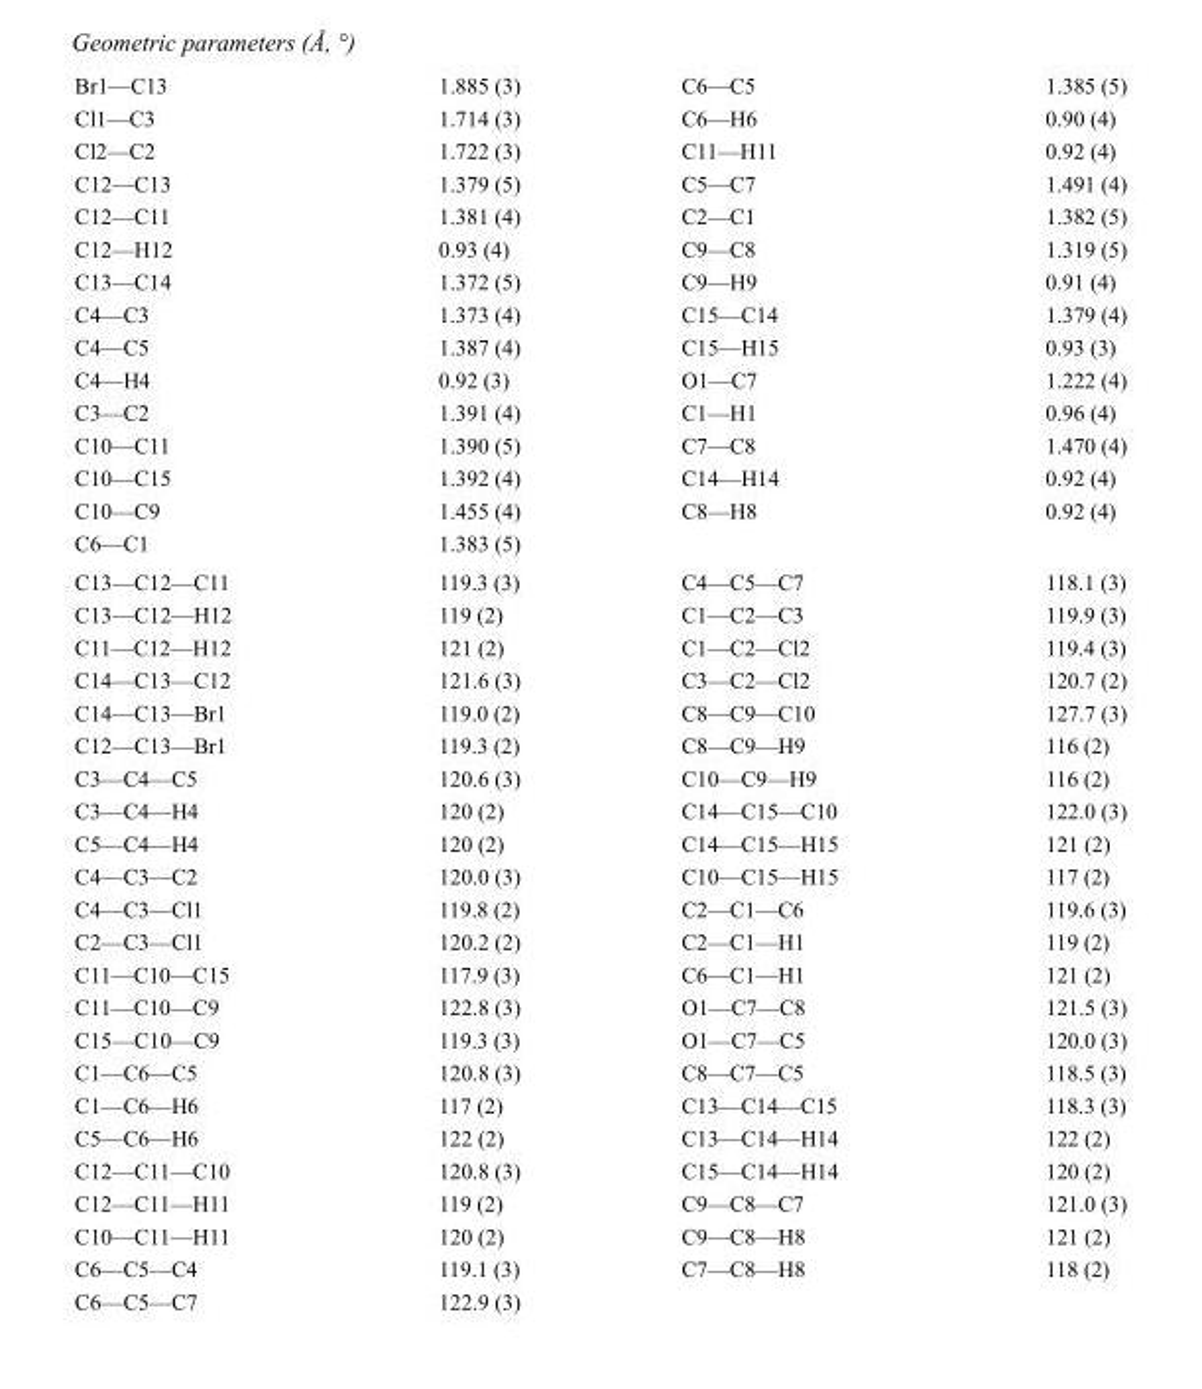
<table><tbody><tr><td>Br1—C13</td><td>1.885 (3)</td><td>C6—C5</td><td>1.385 (5)</td></tr><tr><td>Cl1—C3</td><td>1.714 (3)</td><td>C6—H6</td><td>0.90 (4)</td></tr><tr><td>Cl2—C2</td><td>1.722 (3)</td><td>C11—H11</td><td>0.92 (4)</td></tr><tr><td>C12—C13</td><td>1.379 (5)</td><td>C5—C7</td><td>1.491 (4)</td></tr><tr><td>C12—C11</td><td>1.381 (4)</td><td>C2—C1</td><td>1.382 (5)</td></tr><tr><td>C12—H12</td><td>0.93 (4)</td><td>C9—C8</td><td>1.319 (5)</td></tr><tr><td>C13—C14</td><td>1.372 (5)</td><td>C9—H9</td><td>0.91 (4)</td></tr><tr><td>C4—C3</td><td>1.373 (4)</td><td>C15—C14</td><td>1.379 (4)</td></tr><tr><td>C4—C5</td><td>1.387 (4)</td><td>C15—H15</td><td>0.93 (3)</td></tr><tr><td>C4—H4</td><td>0.92 (3)</td><td>O1—C7</td><td>1.222 (4)</td></tr><tr><td>C3—C2</td><td>1.391 (4)</td><td>C1—H1</td><td>0.96 (4)</td></tr><tr><td>C10—C11</td><td>1.390 (5)</td><td>C7—C8</td><td>1.470 (4)</td></tr><tr><td>C10—C15</td><td>1.392 (4)</td><td>C14—H14</td><td>0.92 (4)</td></tr><tr><td>C10—C9</td><td>1.455 (4)</td><td>C8—H8</td><td>0.92 (4)</td></tr><tr><td>C6—C1</td><td>1.383 (5)</td><td></td><td></td></tr><tr><td>C13—C12—C11</td><td>119.3 (3)</td><td>C4—C5—C7</td><td>118.1 (3)</td></tr><tr><td>C13—C12—H12</td><td>119 (2)</td><td>C1—C2—C3</td><td>119.9 (3)</td></tr><tr><td>C11—C12—H12</td><td>121 (2)</td><td>C1—C2—Cl2</td><td>119.4 (3)</td></tr><tr><td>C14—C13—C12</td><td>121.6 (3)</td><td>C3—C2—Cl2</td><td>120.7 (2)</td></tr><tr><td>C14—C13—Br1</td><td>119.0 (2)</td><td>C8—C9—C10</td><td>127.7 (3)</td></tr><tr><td>C12—C13—Br1</td><td>119.3 (2)</td><td>C8—C9—H9</td><td>116 (2)</td></tr><tr><td>C3—C4—C5</td><td>120.6 (3)</td><td>C10—C9—H9</td><td>116 (2)</td></tr><tr><td>C3—C4—H4</td><td>120 (2)</td><td>C14—C15—C10</td><td>122.0 (3)</td></tr><tr><td>C5—C4—H4</td><td>120 (2)</td><td>C14—C15—H15</td><td>121 (2)</td></tr><tr><td>C4—C3—C2</td><td>120.0 (3)</td><td>C10—C15—H15</td><td>117 (2)</td></tr><tr><td>C4—C3—Cl1</td><td>119.8 (2)</td><td>C2—C1—C6</td><td>119.6 (3)</td></tr><tr><td>C2—C3—Cl1</td><td>120.2 (2)</td><td>C2—C1—H1</td><td>119 (2)</td></tr><tr><td>C11—C10—C15</td><td>117.9 (3)</td><td>C6—C1—H1</td><td>121 (2)</td></tr><tr><td>C11—C10—C9</td><td>122.8 (3)</td><td>O1—C7—C8</td><td>121.5 (3)</td></tr><tr><td>C15—C10—C9</td><td>119.3 (3)</td><td>O1—C7—C5</td><td>120.0 (3)</td></tr><tr><td>C1—C6—C5</td><td>120.8 (3)</td><td>C8—C7—C5</td><td>118.5 (3)</td></tr><tr><td>C1—C6—H6</td><td>117 (2)</td><td>C13—C14—C15</td><td>118.3 (3)</td></tr><tr><td>C5—C6—H6</td><td>122 (2)</td><td>C13—C14—H14</td><td>122 (2)</td></tr><tr><td>C12—C11—C10</td><td>120.8 (3)</td><td>C15—C14—H14</td><td>120 (2)</td></tr><tr><td>C12—C11—H11</td><td>119 (2)</td><td>C9—C8—C7</td><td>121.0 (3)</td></tr><tr><td>C10—C11—H11</td><td>120 (2)</td><td>C9—C8—H8</td><td>121 (2)</td></tr><tr><td>C6—C5—C4</td><td>119.1 (3)</td><td>C7—C8—H8</td><td>118 (2)</td></tr><tr><td>C6—C5—C7</td><td>122.9 (3)</td><td></td><td></td></tr></tbody></table>